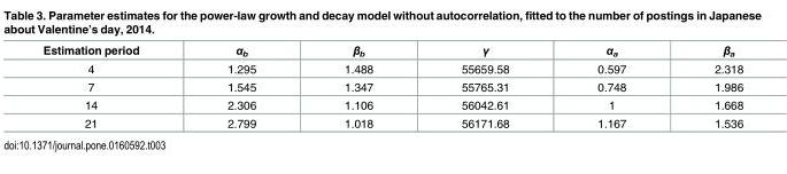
<table><thead><tr><td>Estimation period</td><td>α<sub>b</sub></td><td>β<sub>b</sub></td><td>γ</td><td>α<sub>a</sub></td><td>β<sub>a</sub></td></tr></thead><tbody><tr><td>4</td><td>1.295</td><td>1.488</td><td>55659.58</td><td>0.597</td><td>2.318</td></tr><tr><td>7</td><td>1.545</td><td>1.347</td><td>55765.31</td><td>0.748</td><td>1.986</td></tr><tr><td>14</td><td>2.306</td><td>1.106</td><td>56042.61</td><td>1</td><td>1.668</td></tr><tr><td>21</td><td>2.799</td><td>1.018</td><td>56171.68</td><td>1.167</td><td>1.536</td></tr></tbody></table>